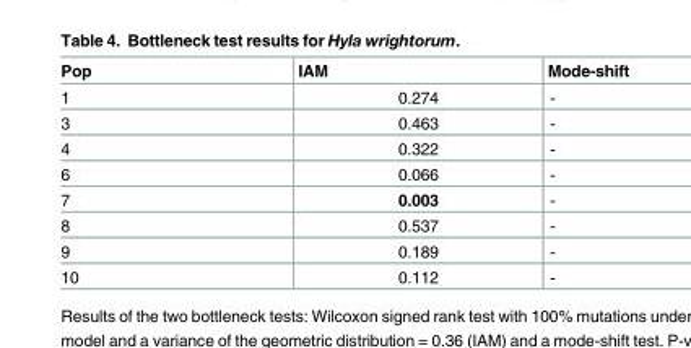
<table><thead><tr><td>Pop</td><td>IAM</td><td>Mode-shift</td></tr></thead><tbody><tr><td>1</td><td>0.274</td><td>-</td></tr><tr><td>3</td><td>0.463</td><td>-</td></tr><tr><td>4</td><td>0.322</td><td>-</td></tr><tr><td>6</td><td>0.066</td><td>-</td></tr><tr><td>7</td><td>0.003</td><td>-</td></tr><tr><td>8</td><td>0.537</td><td>-</td></tr><tr><td>9</td><td>0.189</td><td>-</td></tr><tr><td>10</td><td>0.112</td><td>-</td></tr></tbody></table>